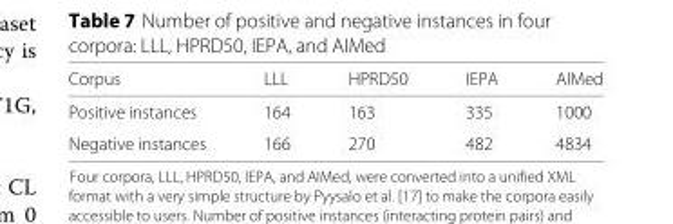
<table><thead><tr><td>Corpus</td><td>LLL</td><td>HPRD50</td><td>IEPA</td><td>AIMed</td></tr></thead><tbody><tr><td>Positive instances</td><td>164</td><td>163</td><td>335</td><td>1000</td></tr><tr><td>Negative instances</td><td>166</td><td>270</td><td>482</td><td>4834</td></tr></tbody></table>